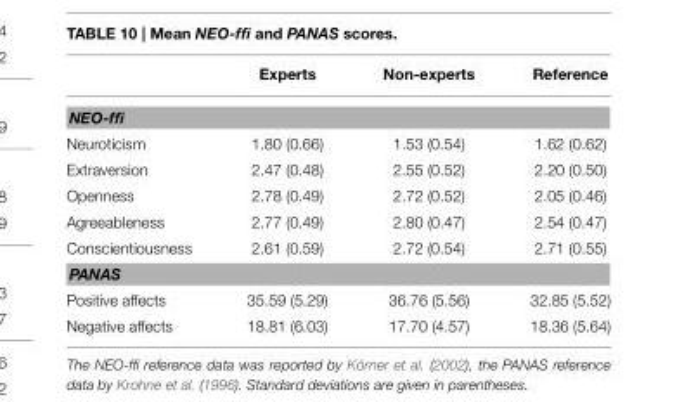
<table><thead><tr><td></td><td>Experts</td><td>Non-experts</td><td>Reference</td></tr></thead><tbody><tr><td colspan="4">NEO-ffi</td></tr><tr><td>Neuroticism</td><td>1.80 (0.66)</td><td>1.53 (0.54)</td><td>1.62 (0.62)</td></tr><tr><td>Extraversion</td><td>2.47 (0.48)</td><td>2.55 (0.52)</td><td>2.20 (0.50)</td></tr><tr><td>Openness</td><td>2.78 (0.49)</td><td>2.72 (0.52)</td><td>2.05 (0.46)</td></tr><tr><td>Agreeableness</td><td>2.77 (0.49)</td><td>2.80 (0.47)</td><td>2.54 (0.47)</td></tr><tr><td>Conscientiousness</td><td>2.61 (0.59)</td><td>2.72 (0.54)</td><td>2.71 (0.55)</td></tr><tr><td colspan="4">PANAS</td></tr><tr><td>Positive affects</td><td>35.59 (5.29)</td><td>36.76 (5.56)</td><td>32.85 (5.52)</td></tr><tr><td>Negative affects</td><td>18.81 (6.03)</td><td>17.70 (4.57)</td><td>18.36 (5.64)</td></tr></tbody></table>